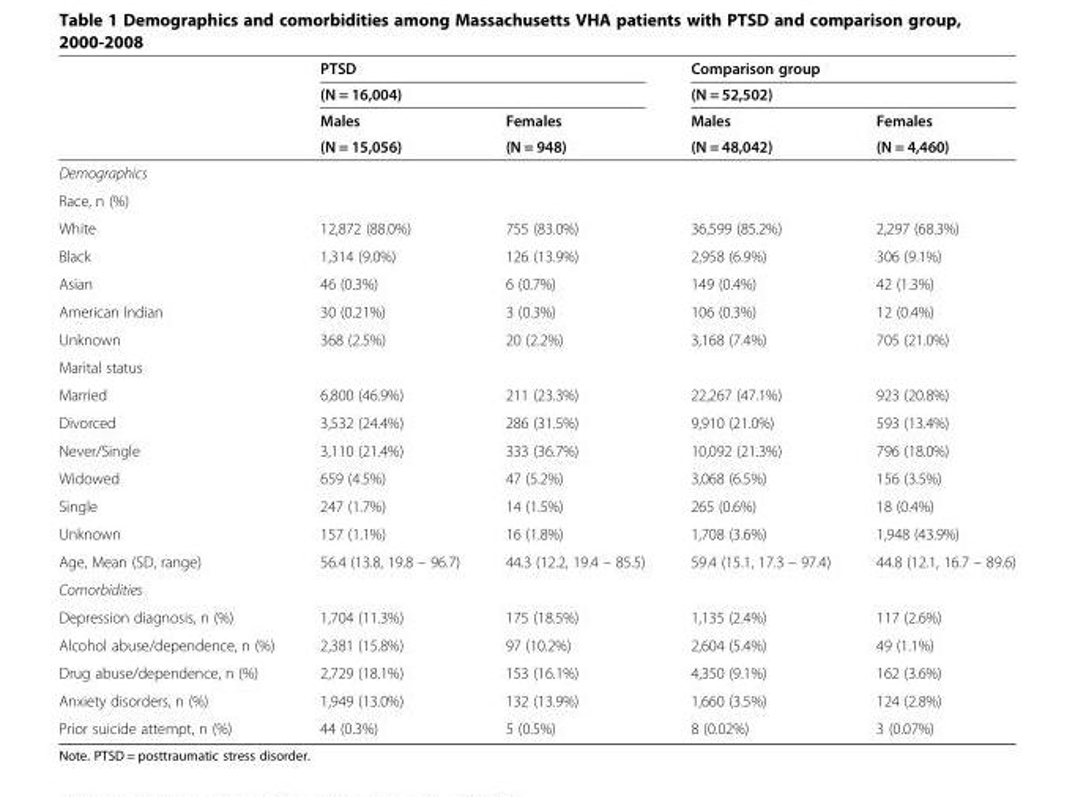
<table><thead><tr><td rowspan="4"></td><td rowspan="2" colspan="2">PTSD (N = 16,004)</td><td rowspan="2" colspan="2">Comparison group (N = 52,502)</td></tr><tr></tr><tr><td rowspan="2">Males (N = 15,056)</td><td rowspan="2">Females (N = 948)</td><td rowspan="2">Males (N = 48,042)</td><td rowspan="2">Females (N = 4,460)</td></tr><tr></tr></thead><tbody><tr><td colspan="5">Demographics</td></tr><tr><td colspan="5">Race, n (%)</td></tr><tr><td>White</td><td>12,872 (88.0%)</td><td>755 (83.0%)</td><td>36,599 (85.2%)</td><td>2,297 (68.3%)</td></tr><tr><td>Black</td><td>1,314 (9.0%)</td><td>126 (13.9%)</td><td>2,958 (6.9%)</td><td>306 (9.1%)</td></tr><tr><td>Asian</td><td>46 (0.3%)</td><td>6 (0.7%)</td><td>149 (0.4%)</td><td>42 (1.3%)</td></tr><tr><td>American Indian</td><td>30 (0.21%)</td><td>3 (0.3%)</td><td>106 (0.3%)</td><td>12 (0.4%)</td></tr><tr><td>Unknown</td><td>368 (2.5%)</td><td>20 (2.2%)</td><td>3,168 (7.4%)</td><td>705 (21.0%)</td></tr><tr><td colspan="5">Marital status</td></tr><tr><td>Married</td><td>6,800 (46.9%)</td><td>211 (23.3%)</td><td>22,267 (47.1%)</td><td>923 (20.8%)</td></tr><tr><td>Divorced</td><td>3,532 (24.4%)</td><td>286 (31.5%)</td><td>9,910 (21.0%)</td><td>593 (13.4%)</td></tr><tr><td>Never/Single</td><td>3,110 (21.4%)</td><td>333 (36.7%)</td><td>10,092 (21.3%)</td><td>796 (18.0%)</td></tr><tr><td>Widowed</td><td>659 (4.5%)</td><td>47 (5.2%)</td><td>3,068 (6.5%)</td><td>156 (3.5%)</td></tr><tr><td>Single</td><td>247 (1.7%)</td><td>14 (1.5%)</td><td>265 (0.6%)</td><td>18 (0.4%)</td></tr><tr><td>Unknown</td><td>157 (1.1%)</td><td>16 (1.8%)</td><td>1,708 (3.6%)</td><td>1,948 (43.9%)</td></tr><tr><td>Age, Mean (SD, range)</td><td>56.4 (13.8, 19.8 – 96.7)</td><td>44.3 (12.2, 19.4 – 85.5)</td><td>59.4 (15.1, 17.3 – 97.4)</td><td>44.8 (12.1, 16.7 – 89.6)</td></tr><tr><td colspan="5">Comorbidities</td></tr><tr><td>Depression diagnosis, n (%)</td><td>1,704 (11.3%)</td><td>175 (18.5%)</td><td>1,135 (2.4%)</td><td>117 (2.6%)</td></tr><tr><td>Alcohol abuse/dependence, n (%)</td><td>2,381 (15.8%)</td><td>97 (10.2%)</td><td>2,604 (5.4%)</td><td>49 (1.1%)</td></tr><tr><td>Drug abuse/dependence, n (%)</td><td>2,729 (18.1%)</td><td>153 (16.1%)</td><td>4,350 (9.1%)</td><td>162 (3.6%)</td></tr><tr><td>Anxiety disorders, n (%)</td><td>1,949 (13.0%)</td><td>132 (13.9%)</td><td>1,660 (3.5%)</td><td>124 (2.8%)</td></tr><tr><td>Prior suicide attempt, n (%)</td><td>44 (0.3%)</td><td>5 (0.5%)</td><td>8 (0.02%)</td><td>3 (0.07%)</td></tr></tbody></table>